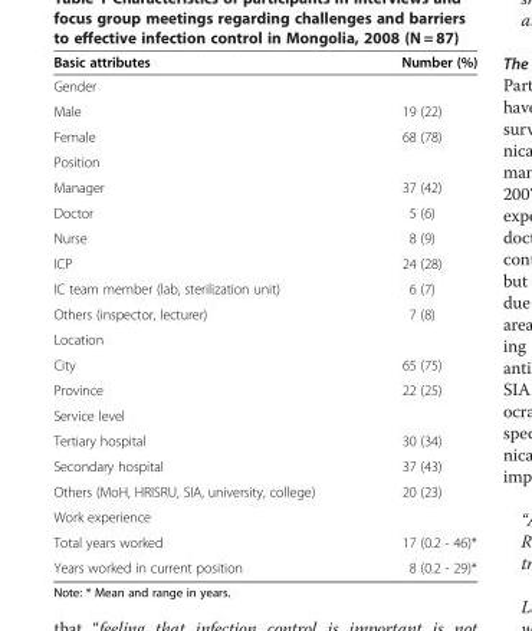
<table><thead><tr><td>Basic attributes</td><td>Number (%)</td></tr></thead><tbody><tr><td colspan="2">Gender</td></tr><tr><td>Male</td><td>19 (22)</td></tr><tr><td>Female</td><td>68 (78)</td></tr><tr><td colspan="2">Position</td></tr><tr><td>Manager</td><td>37 (42)</td></tr><tr><td>Doctor</td><td>5 (6)</td></tr><tr><td>Nurse</td><td>8 (9)</td></tr><tr><td>ICP</td><td>24 (28)</td></tr><tr><td>IC team member (lab, sterilization unit)</td><td>6 (7)</td></tr><tr><td>Others (inspector, lecturer)</td><td>7 (8)</td></tr><tr><td colspan="2">Location</td></tr><tr><td>City</td><td>65 (75)</td></tr><tr><td>Province</td><td>22 (25)</td></tr><tr><td colspan="2">Service level</td></tr><tr><td>Tertiary hospital</td><td>30 (34)</td></tr><tr><td>Secondary hospital</td><td>37 (43)</td></tr><tr><td>Others (MoH, HRISRU, SIA, university, college)</td><td>20 (23)</td></tr><tr><td colspan="2">Work experience</td></tr><tr><td>Total years worked</td><td>17 (0.2 - 46)*</td></tr><tr><td>Years worked in current position</td><td>8 (0.2 - 29)*</td></tr></tbody></table>